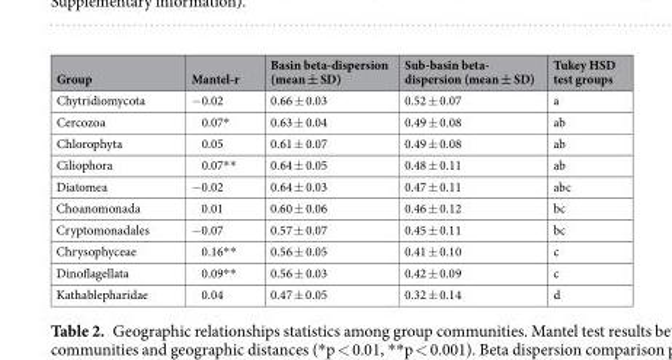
<table><thead><tr><td>Group</td><td>Mantel-r</td><td>Basin beta-dispersion (mean ± SD)</td><td>Sub-basin beta- dispersion (mean ± SD)</td><td>Tukey HSD test groups</td></tr></thead><tbody><tr><td>Chytridiomycota</td><td>−0.02</td><td>0.66 ± 0.03</td><td>0.52 ± 0.07</td><td>a</td></tr><tr><td>Cercozoa</td><td>0.07*</td><td>0.63 ± 0.04</td><td>0.49 ± 0.08</td><td>ab</td></tr><tr><td>Chlorophyta</td><td>0.05</td><td>0.61 ± 0.07</td><td>0.49 ± 0.08</td><td>ab</td></tr><tr><td>Ciliophora</td><td>0.07**</td><td>0.64 ± 0.05</td><td>0.48 ± 0.11</td><td>ab</td></tr><tr><td>Diatomea</td><td>−0.02</td><td>0.64 ± 0.03</td><td>0.47 ± 0.11</td><td>abc</td></tr><tr><td>Choanomonada</td><td>0.01</td><td>0.60 ± 0.06</td><td>0.46 ± 0.12</td><td>bc</td></tr><tr><td>Cryptomonadales</td><td>−0.07</td><td>0.57 ± 0.07</td><td>0.45 ± 0.11</td><td>bc</td></tr><tr><td>Chrysophyceae</td><td>0.16**</td><td>0.56 ± 0.05</td><td>0.41 ± 0.10</td><td>c</td></tr><tr><td>Dinoflagellata</td><td>0.09**</td><td>0.56 ± 0.03</td><td>0.42 ± 0.09</td><td>c</td></tr><tr><td>Kathablepharidae</td><td>0.04</td><td>0.47 ± 0.05</td><td>0.32 ± 0.14</td><td>d</td></tr></tbody></table>